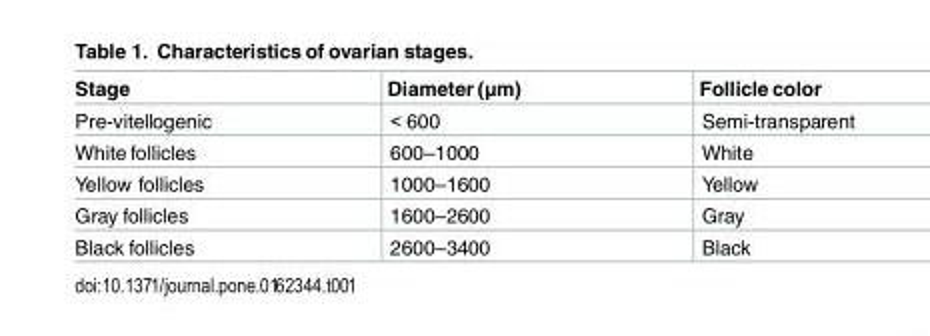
<table><thead><tr><td>Stage</td><td>Diameter (μm)</td><td>Follicle color</td></tr></thead><tbody><tr><td>Pre-vitellogenic</td><td>&lt; 600</td><td>Semi-transparent</td></tr><tr><td>White follicles</td><td>600–1000</td><td>White</td></tr><tr><td>Yellow follicles</td><td>1000–1600</td><td>Yellow</td></tr><tr><td>Gray follicles</td><td>1600–2600</td><td>Gray</td></tr><tr><td>Black follicles</td><td>2600–3400</td><td>Black</td></tr></tbody></table>